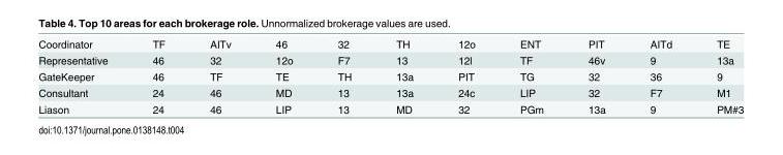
<table><tbody><tr><td>Coordinator</td><td>TF</td><td>AITv</td><td>46</td><td>32</td><td>TH</td><td>12o</td><td>ENT</td><td>PIT</td><td>AITd</td><td>TE</td></tr><tr><td>Representative</td><td>46</td><td>32</td><td>12o</td><td>F7</td><td>13</td><td>12l</td><td>TF</td><td>46v</td><td>9</td><td>13a</td></tr><tr><td>GateKeeper</td><td>46</td><td>TF</td><td>TE</td><td>TH</td><td>13a</td><td>PIT</td><td>TG</td><td>32</td><td>36</td><td>9</td></tr><tr><td>Consultant</td><td>24</td><td>46</td><td>MD</td><td>13</td><td>13a</td><td>24c</td><td>LIP</td><td>32</td><td>F7</td><td>M1</td></tr><tr><td>Liason</td><td>24</td><td>46</td><td>LIP</td><td>13</td><td>MD</td><td>32</td><td>PGm</td><td>13a</td><td>9</td><td>PM#3</td></tr></tbody></table>